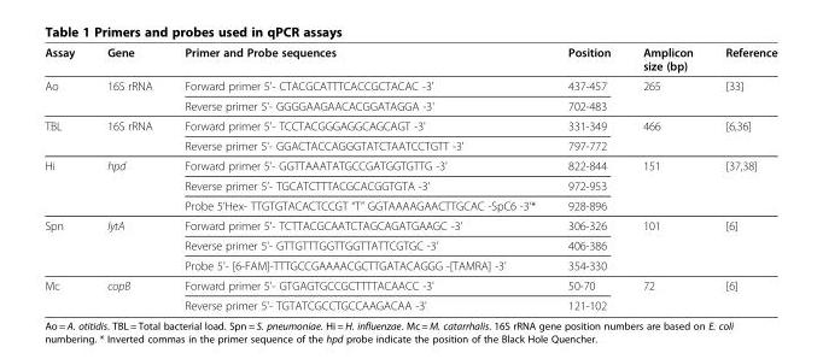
<table><thead><tr><td>Assay</td><td>Gene</td><td>Primer and Probe sequences</td><td>Position</td><td>Amplicon size (bp)</td><td>Reference</td></tr></thead><tbody><tr><td rowspan="2">Ao</td><td rowspan="2">16S rRNA</td><td>Forward primer 5&#x27;- CTACGCATTTCACCGCTACAC -3&#x27;</td><td>437-457</td><td rowspan="2">265</td><td rowspan="2">[33]</td></tr><tr><td>Reverse primer 5&#x27;- GGGGAAGAACACGGATAGGA -3&#x27;</td><td>702-483</td></tr><tr><td rowspan="2">TBL</td><td rowspan="2">16S rRNA</td><td>Forward primer 5&#x27;- TCCTACGGGAGGCAGCAGT -3&#x27;</td><td>331-349</td><td rowspan="2">466</td><td rowspan="2">[6,36]</td></tr><tr><td>Reverse primer 5&#x27;- GGACTACCAGGGTATCTAATCCTGTT -3&#x27;</td><td>797-772</td></tr><tr><td rowspan="3">Hi</td><td rowspan="3">hpd</td><td>Forward primer 5’- GGTTAAATATGCCGATGGTGTTG -3’</td><td>822-844</td><td rowspan="3">151</td><td rowspan="3">[37,38]</td></tr><tr><td>Reverse primer 5’- TGCATCTTTACGCACGGTGTA -3’</td><td>972-953</td></tr><tr><td>Probe 5’Hex- TTGTGTACACTCCGT “T” GGTAAAAGAACTTGCAC -SpC6 -3’*</td><td>928-896</td></tr><tr><td rowspan="3">Spn</td><td rowspan="3">lytA</td><td>Forward primer 5&#x27;- TCTTACGCAATCTAGCAGATGAAGC -3&#x27;</td><td>306-326</td><td rowspan="3">101</td><td rowspan="3">[6]</td></tr><tr><td>Reverse primer 5&#x27;- GTTGTTTGGTTGGTTATTCGTGC -3&#x27;</td><td>406-386</td></tr><tr><td>Probe 5&#x27;- [6-FAM]-TTTGCCGAAAACGCTTGATACAGGG -[TAMRA] -3&#x27;</td><td>354-330</td></tr><tr><td rowspan="2">Mc</td><td rowspan="2">copB</td><td>Forward primer 5&#x27;- GTGAGTGCCGCTTTTACAACC -3&#x27;</td><td>50-70</td><td rowspan="2">72</td><td rowspan="2">[6]</td></tr><tr><td>Reverse primer 5&#x27;- TGTATCGCCTGCCAAGACAA -3&#x27;</td><td>121-102</td></tr></tbody></table>